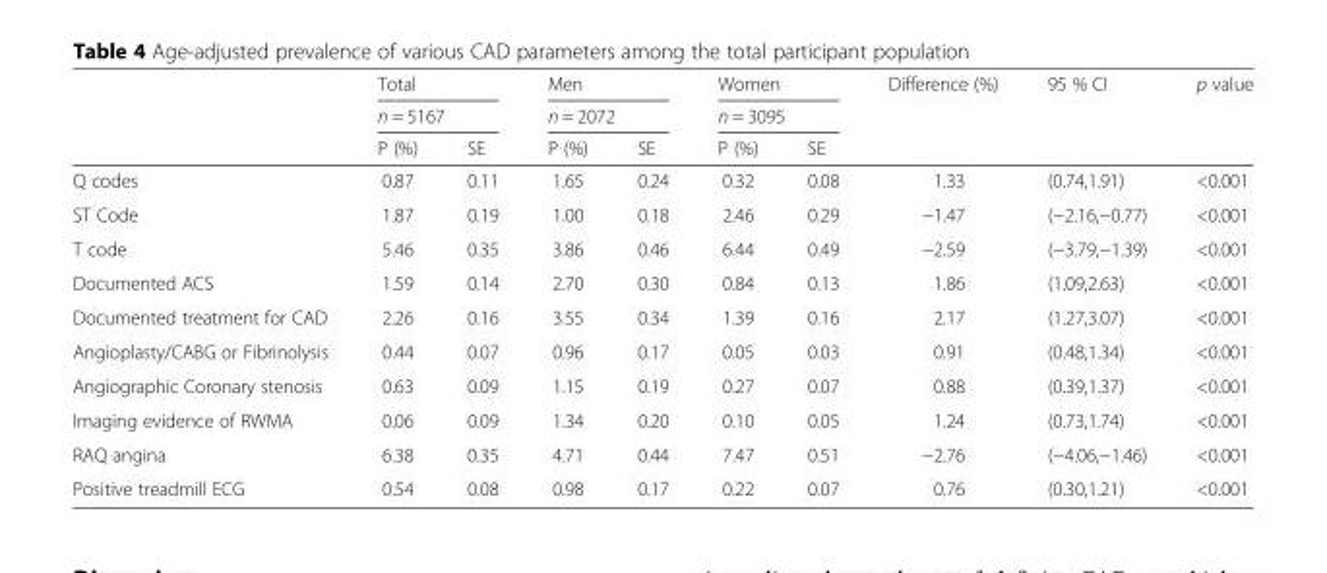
<table><thead><tr><td rowspan="3"></td><td rowspan="2" colspan="2">Total n = 5167</td><td rowspan="2" colspan="2">Men n = 2072</td><td rowspan="2" colspan="2">Women n = 3095</td><td rowspan="3">Difference (%)</td><td rowspan="3">95 % CI</td><td rowspan="3">p value</td></tr><tr></tr><tr><td>P (%)</td><td>SE</td><td>P (%)</td><td>SE</td><td>P (%)</td><td>SE</td></tr></thead><tbody><tr><td>Q codes</td><td>0.87</td><td>0.11</td><td>1.65</td><td>0.24</td><td>0.32</td><td>0.08</td><td>1.33</td><td>(0.74,1.91)</td><td>&lt;0.001</td></tr><tr><td>ST Code</td><td>1.87</td><td>0.19</td><td>1.00</td><td>0.18</td><td>2.46</td><td>0.29</td><td>−1.47</td><td>(−2.16,−0.77)</td><td>&lt;0.001</td></tr><tr><td>T code</td><td>5.46</td><td>0.35</td><td>3.86</td><td>0.46</td><td>6.44</td><td>0.49</td><td>−2.59</td><td>(−3.79,−1.39)</td><td>&lt;0.001</td></tr><tr><td>Documented ACS</td><td>1.59</td><td>0.14</td><td>2.70</td><td>0.30</td><td>0.84</td><td>0.13</td><td>1.86</td><td>(1.09,2.63)</td><td>&lt;0.001</td></tr><tr><td>Documented treatment for CAD</td><td>2.26</td><td>0.16</td><td>3.55</td><td>0.34</td><td>1.39</td><td>0.16</td><td>2.17</td><td>(1.27,3.07)</td><td>&lt;0.001</td></tr><tr><td>Angioplasty/CABG or Fibrinolysis</td><td>0.44</td><td>0.07</td><td>0.96</td><td>0.17</td><td>0.05</td><td>0.03</td><td>0.91</td><td>(0.48,1.34)</td><td>&lt;0.001</td></tr><tr><td>Angiographic Coronary stenosis</td><td>0.63</td><td>0.09</td><td>1.15</td><td>0.19</td><td>0.27</td><td>0.07</td><td>0.88</td><td>(0.39,1.37)</td><td>&lt;0.001</td></tr><tr><td>Imaging evidence of RWMA</td><td>0.06</td><td>0.09</td><td>1.34</td><td>0.20</td><td>0.10</td><td>0.05</td><td>1.24</td><td>(0.73,1.74)</td><td>&lt;0.001</td></tr><tr><td>RAQ angina</td><td>6.38</td><td>0.35</td><td>4.71</td><td>0.44</td><td>7.47</td><td>0.51</td><td>−2.76</td><td>(−4.06,−1.46)</td><td>&lt;0.001</td></tr><tr><td>Positive treadmill ECG</td><td>0.54</td><td>0.08</td><td>0.98</td><td>0.17</td><td>0.22</td><td>0.07</td><td>0.76</td><td>(0.30,1.21)</td><td>&lt;0.001</td></tr></tbody></table>